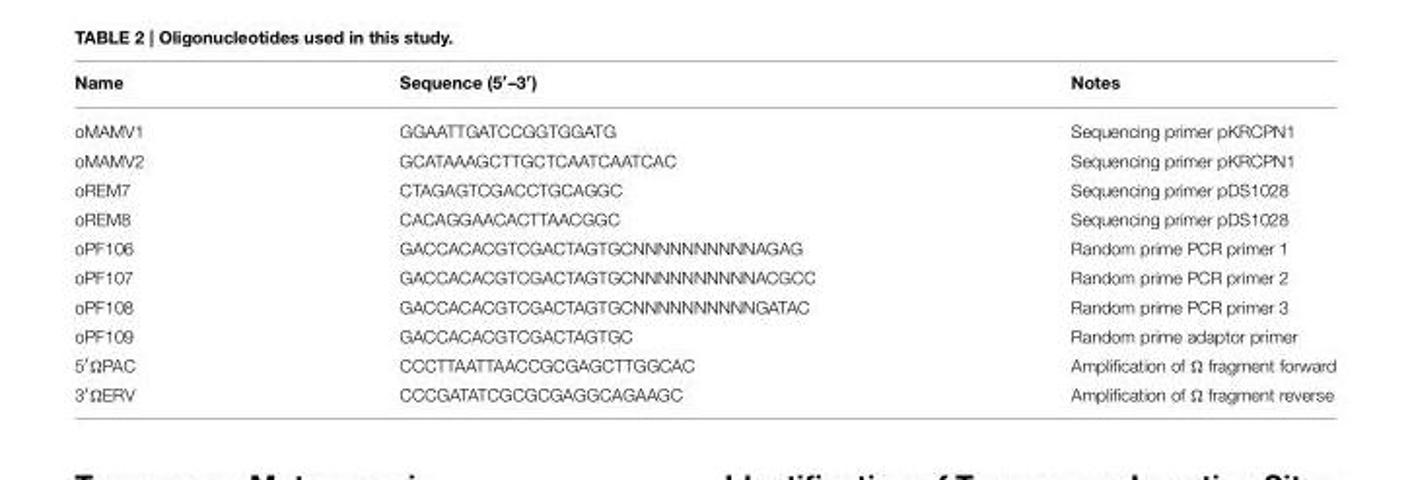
<table><thead><tr><td>Name</td><td>Sequence (5′–3′)</td><td>Notes</td></tr></thead><tbody><tr><td>oMAMV1</td><td>GGAATTGATCCGGTGGATG</td><td>Sequencing primer pKRCPN1</td></tr><tr><td>oMAMV2</td><td>GCATAAAGCTTGCTCAATCAATCAC</td><td>Sequencing primer pKRCPN1</td></tr><tr><td>oREM7</td><td>CTAGAGTCGACCTGCAGGC</td><td>Sequencing primer pDS1028</td></tr><tr><td>oREM8</td><td>CACAGGAACACTTAACGGC</td><td>Sequencing primer pDS1028</td></tr><tr><td>oPF106</td><td>GACCACACGTCGACTAGTGCNNNNNNNNNNAGAG</td><td>Random prime PCR primer 1</td></tr><tr><td>oPF107</td><td>GACCACACGTCGACTAGTGCNNNNNNNNNNACGCC</td><td>Random prime PCR primer 2</td></tr><tr><td>oPF108</td><td>GACCACACGTCGACTAGTGCNNNNNNNNNNGATAC</td><td>Random prime PCR primer 3</td></tr><tr><td>oPF109</td><td>GACCACACGTCGACTAGTGC</td><td>Random prime adaptor primer</td></tr><tr><td>5′ΩPAC</td><td>CCCTTAATTAACCGCGAGCTTGGCAC</td><td>Amplification of Ω fragment forward</td></tr><tr><td>3′ΩERV</td><td>CCCGATATCGCGCGAGGCAGAAGC</td><td>Amplification of Ω fragment reverse</td></tr></tbody></table>